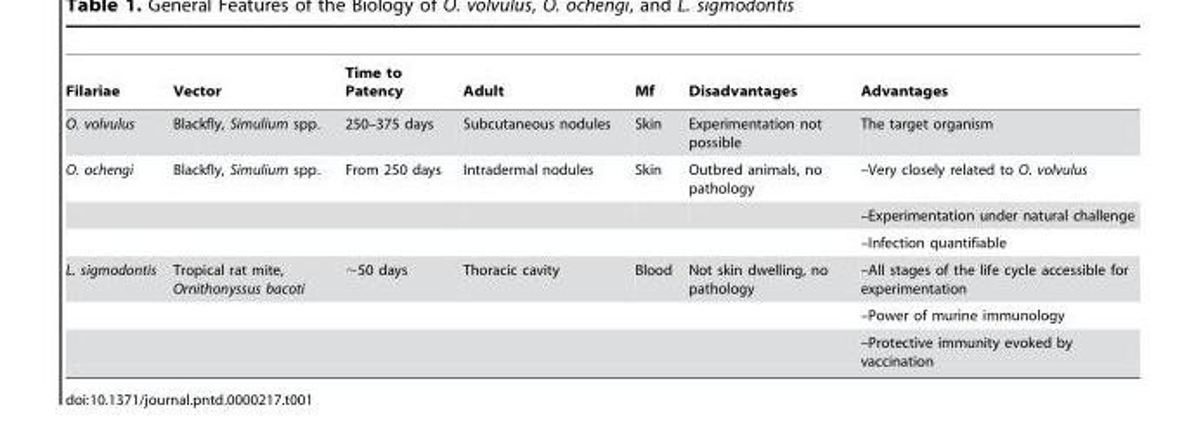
<table><thead><tr><td>Filariae</td><td>Vector</td><td>Time to Patency</td><td>Adult</td><td>Mf</td><td>Disadvantages</td><td>Advantages</td></tr></thead><tbody><tr><td>O. volvulus</td><td>Blackfly, Simulium spp.</td><td>250–375 days</td><td>Subcutaneous nodules</td><td>Skin</td><td>Experimentation not possible</td><td>The target organism</td></tr><tr><td rowspan="3">O. ochengi</td><td>Blackfly, Simulium spp.</td><td>From 250 days</td><td>Intradermal nodules</td><td>Skin</td><td>Outbred animals, no pathology</td><td>–Very closely related to O. volvulus</td></tr><tr><td></td><td></td><td></td><td></td><td></td><td>–Experimentation under natural challenge</td></tr><tr><td></td><td></td><td></td><td></td><td></td><td>–Infection quantifiable</td></tr><tr><td rowspan="3">L. sigmodontis</td><td>Tropical rat mite, Ornithonyssus bacoti</td><td>∼50 days</td><td>Thoracic cavity</td><td>Blood</td><td>Not skin dwelling, no pathology</td><td>–All stages of the life cycle accessible for experimentation</td></tr><tr><td></td><td></td><td></td><td></td><td></td><td>–Power of murine immunology</td></tr><tr><td></td><td></td><td></td><td></td><td></td><td>–Protective immunity evoked by vaccination</td></tr></tbody></table>